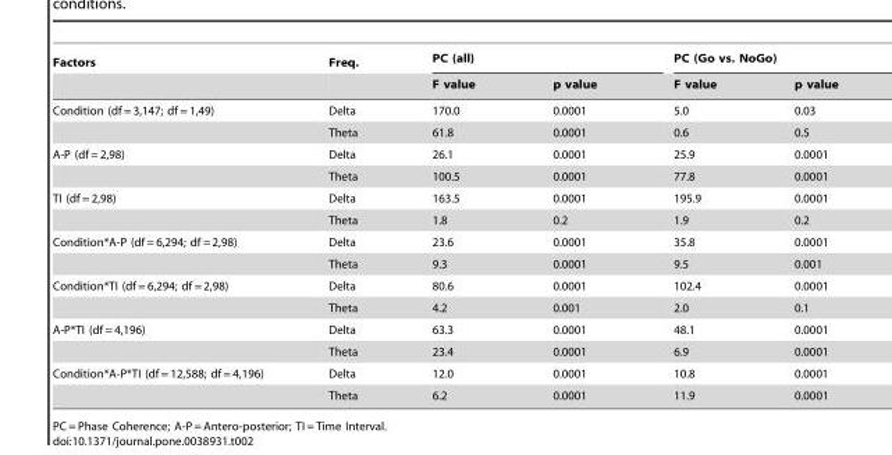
<table><thead><tr><td rowspan="2">Factors</td><td rowspan="2">Freq.</td><td colspan="2">PC (all)</td><td colspan="2">PC (Go vs. NoGo)</td></tr><tr><td>F value</td><td>p value</td><td>F value</td><td>p value</td></tr></thead><tbody><tr><td rowspan="2">Condition (df = 3,147; df = 1,49)</td><td>Delta</td><td>170.0</td><td>0.0001</td><td>5.0</td><td>0.03</td></tr><tr><td>Theta</td><td>61.8</td><td>0.0001</td><td>0.6</td><td>0.5</td></tr><tr><td rowspan="2">A-P (df = 2,98)</td><td>Delta</td><td>26.1</td><td>0.0001</td><td>25.9</td><td>0.0001</td></tr><tr><td>Theta</td><td>100.5</td><td>0.0001</td><td>77.8</td><td>0.0001</td></tr><tr><td rowspan="2">TI (df = 2,98)</td><td>Delta</td><td>163.5</td><td>0.0001</td><td>195.9</td><td>0.0001</td></tr><tr><td>Theta</td><td>1.8</td><td>0.2</td><td>1.9</td><td>0.2</td></tr><tr><td rowspan="2">Condition*A-P (df = 6,294; df = 2,98)</td><td>Delta</td><td>23.6</td><td>0.0001</td><td>35.8</td><td>0.0001</td></tr><tr><td>Theta</td><td>9.3</td><td>0.0001</td><td>9.5</td><td>0.001</td></tr><tr><td rowspan="2">Condition*TI (df = 6,294; df = 2,98)</td><td>Delta</td><td>80.6</td><td>0.0001</td><td>102.4</td><td>0.0001</td></tr><tr><td>Theta</td><td>4.2</td><td>0.001</td><td>2.0</td><td>0.1</td></tr><tr><td rowspan="2">A-P*TI (df = 4,196)</td><td>Delta</td><td>63.3</td><td>0.0001</td><td>48.1</td><td>0.0001</td></tr><tr><td>Theta</td><td>23.4</td><td>0.0001</td><td>6.9</td><td>0.0001</td></tr><tr><td rowspan="2">Condition*A-P*TI (df = 12,588; df = 4,196)</td><td>Delta</td><td>12.0</td><td>0.0001</td><td>10.8</td><td>0.0001</td></tr><tr><td>Theta</td><td>6.2</td><td>0.0001</td><td>11.9</td><td>0.0001</td></tr></tbody></table>